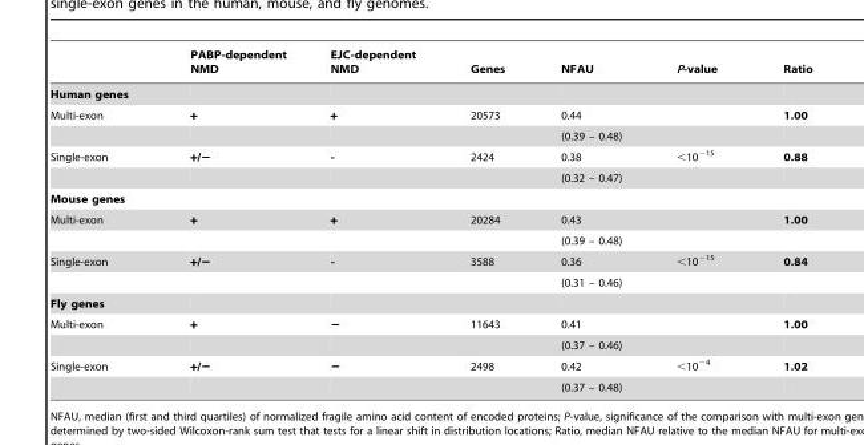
<table><thead><tr><td></td><td>PABP-dependent NMD</td><td>EJC-dependent NMD</td><td>Genes</td><td>NFAU</td><td>P-value</td><td>Ratio</td></tr></thead><tbody><tr><td colspan="7">Human genes</td></tr><tr><td rowspan="2">Multi-exon</td><td>+</td><td>+</td><td>20573</td><td>0.44</td><td></td><td>1.00</td></tr><tr><td></td><td></td><td></td><td>(0.39 – 0.48)</td><td></td><td></td></tr><tr><td rowspan="2">Single-exon</td><td>+/−</td><td>-</td><td>2424</td><td>0.38</td><td>&lt;10<sup>−15</sup></td><td>0.88</td></tr><tr><td></td><td></td><td></td><td>(0.32 – 0.47)</td><td></td><td></td></tr><tr><td colspan="7">Mouse genes</td></tr><tr><td rowspan="2">Multi-exon</td><td>+</td><td>+</td><td>20284</td><td>0.43</td><td></td><td>1.00</td></tr><tr><td></td><td></td><td></td><td>(0.39 – 0.48)</td><td></td><td></td></tr><tr><td rowspan="2">Single-exon</td><td>+/−</td><td>-</td><td>3588</td><td>0.36</td><td>&lt;10<sup>−15</sup></td><td>0.84</td></tr><tr><td></td><td></td><td></td><td>(0.31 – 0.46)</td><td></td><td></td></tr><tr><td colspan="7">Fly genes</td></tr><tr><td rowspan="2">Multi-exon</td><td>+</td><td>−</td><td>11643</td><td>0.41</td><td></td><td>1.00</td></tr><tr><td></td><td></td><td></td><td>(0.37 – 0.46)</td><td></td><td></td></tr><tr><td rowspan="2">Single-exon</td><td>+/−</td><td>−</td><td>2498</td><td>0.42</td><td>&lt;10<sup>−4</sup></td><td>1.02</td></tr><tr><td></td><td></td><td></td><td>(0.37 – 0.48)</td><td></td><td></td></tr></tbody></table>